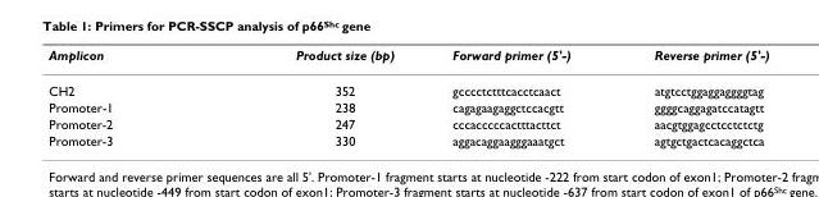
<table><thead><tr><td>Amplicon</td><td>Product size (bp)</td><td>Forward primer (5&#x27;-)</td><td>Reverse primer (5&#x27;-)</td></tr></thead><tbody><tr><td>CH2</td><td>352</td><td>gcccctctttcacctcaact</td><td>atgtcctggaggaggggtag</td></tr><tr><td>Promoter-1</td><td>238</td><td>cagagaagaggctccacgtt</td><td>ggggcaggagatccatagtt</td></tr><tr><td>Promoter-2</td><td>247</td><td>cccacccccactttacttct</td><td>aacgtggagcctcctctctg</td></tr><tr><td>Promoter-3</td><td>330</td><td>aggacaggaagggaaatgct</td><td>agtgctgactcacaggctca</td></tr></tbody></table>